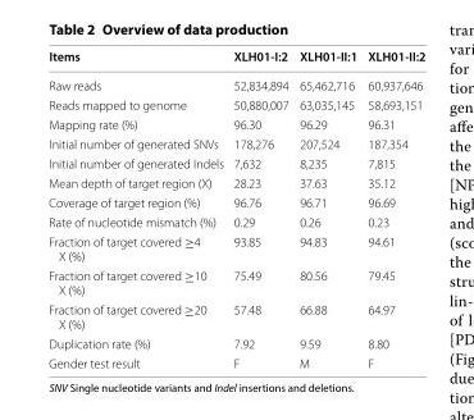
<table><thead><tr><td>Items</td><td>XLH01-I:2</td><td>XLH01-II:1</td><td>XLH01-II:2</td></tr></thead><tbody><tr><td>Raw reads</td><td>52,834,894</td><td>65,462,716</td><td>60,937,646</td></tr><tr><td>Reads mapped to genome</td><td>50,880,007</td><td>63,035,145</td><td>58,693,151</td></tr><tr><td>Mapping rate (%)</td><td>96.30</td><td>96.29</td><td>96.31</td></tr><tr><td>Initial number of generated SNVs</td><td>178,276</td><td>207,524</td><td>187,354</td></tr><tr><td>Initial number of generated Indels</td><td>7,632</td><td>8,235</td><td>7,815</td></tr><tr><td>Mean depth of target region (X)</td><td>28.23</td><td>37.63</td><td>35.12</td></tr><tr><td>Coverage of target region (%)</td><td>96.76</td><td>96.71</td><td>96.69</td></tr><tr><td>Rate of nucleotide mismatch (%)</td><td>0.29</td><td>0.26</td><td>0.23</td></tr><tr><td>Fraction of target covered ≥4 X (%)</td><td>93.85</td><td>94.83</td><td>94.61</td></tr><tr><td>Fraction of target covered ≥10 X (%)</td><td>75.49</td><td>80.56</td><td>79.45</td></tr><tr><td>Fraction of target covered ≥20 X (%)</td><td>57.48</td><td>66.88</td><td>64.97</td></tr><tr><td>Duplication rate (%)</td><td>7.92</td><td>9.59</td><td>8.80</td></tr><tr><td>Gender test result</td><td>F</td><td>M</td><td>F</td></tr></tbody></table>